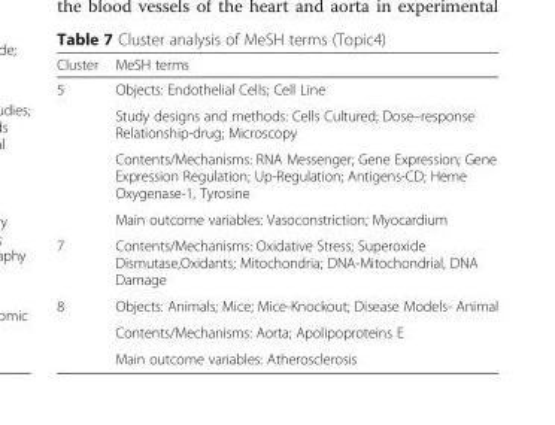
<table><thead><tr><td>Cluster</td><td>MeSH terms</td></tr></thead><tbody><tr><td rowspan="4">5</td><td>Objects: Endothelial Cells; Cell Line</td></tr><tr><td>Study designs and methods: Cells Cultured; Dose–response Relationship-drug; Microscopy</td></tr><tr><td>Contents/Mechanisms: RNA Messenger; Gene Expression; Gene Expression Regulation; Up-Regulation; Antigens-CD; Heme Oxygenase-1, Tyrosine</td></tr><tr><td>Main outcome variables: Vasoconstriction; Myocardium</td></tr><tr><td>7</td><td>Contents/Mechanisms: Oxidative Stress; Superoxide Dismutase,Oxidants; Mitochondria; DNA-Mitochondrial, DNA Damage</td></tr><tr><td rowspan="3">8</td><td>Objects: Animals; Mice; Mice-Knockout; Disease Models- Animal</td></tr><tr><td>Contents/Mechanisms: Aorta; Apolipoproteins E</td></tr><tr><td>Main outcome variables: Atherosclerosis</td></tr></tbody></table>